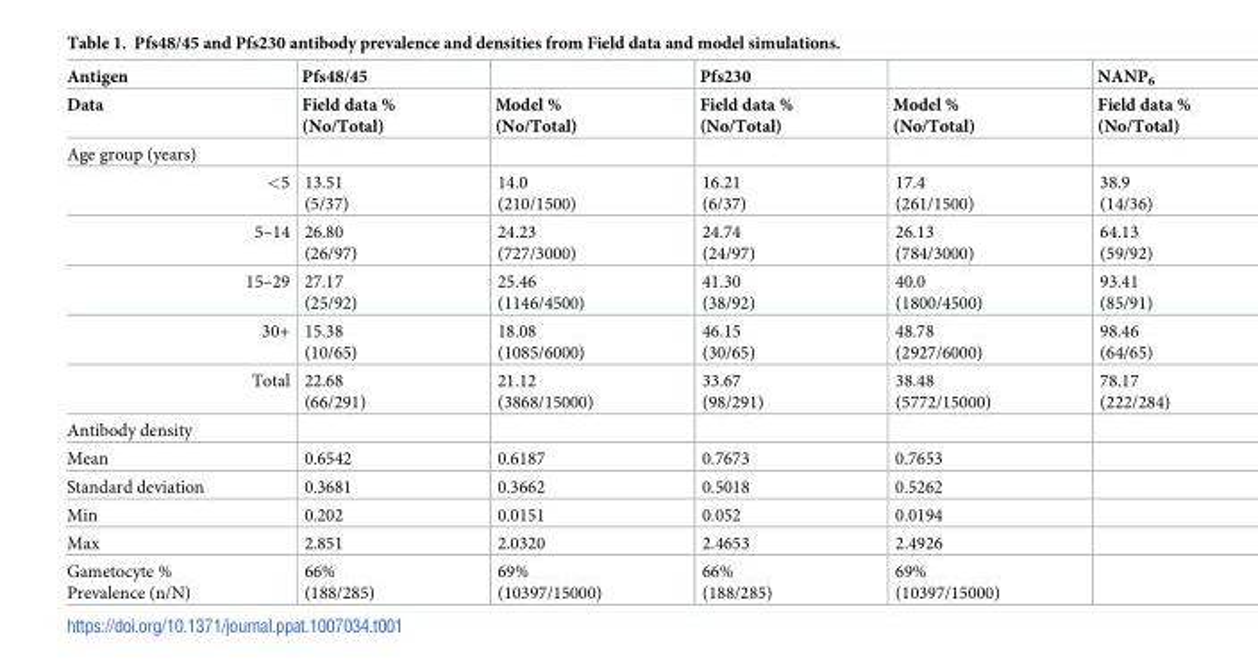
<table><thead><tr><td rowspan="2">Antigen Data</td><td rowspan="2">Pfs48/45 Field data % (No/Total)</td><td rowspan="2">Model % (No/Total)</td><td rowspan="2">Pfs230 Field data % (No/Total)</td><td rowspan="2">Model % (No/Total)</td><td rowspan="2">NANP<sub>6</sub> Field data % (No/Total)</td></tr><tr></tr></thead><tbody><tr><td colspan="6">Age group (years)</td></tr><tr><td>&lt;5</td><td>13.51 (5/37)</td><td>14.0 (210/1500)</td><td>16.21 (6/37)</td><td>17.4 (261/1500)</td><td>38.9 (14/36)</td></tr><tr><td>5–14</td><td>26.80 (26/97)</td><td>24.23 (727/3000)</td><td>24.74 (24/97)</td><td>26.13 (784/3000)</td><td>64.13 (59/92)</td></tr><tr><td>15–29</td><td>27.17 (25/92)</td><td>25.46 (1146/4500)</td><td>41.30 (38/92)</td><td>40.0 (1800/4500)</td><td>93.41 (85/91)</td></tr><tr><td>30+</td><td>15.38 (10/65)</td><td>18.08 (1085/6000)</td><td>46.15 (30/65)</td><td>48.78 (2927/6000)</td><td>98.46 (64/65)</td></tr><tr><td>Total</td><td>22.68 (66/291)</td><td>21.12 (3868/15000)</td><td>33.67 (98/291)</td><td>38.48 (5772/15000)</td><td>78.17 (222/284)</td></tr><tr><td colspan="6">Antibody density</td></tr><tr><td>Mean</td><td>0.6542</td><td>0.6187</td><td>0.7673</td><td>0.7653</td><td></td></tr><tr><td>Standard deviation</td><td>0.3681</td><td>0.3662</td><td>0.5018</td><td>0.5262</td><td></td></tr><tr><td>Min</td><td>0.202</td><td>0.0151</td><td>0.052</td><td>0.0194</td><td></td></tr><tr><td>Max</td><td>2.851</td><td>2.0320</td><td>2.4653</td><td>2.4926</td><td></td></tr><tr><td>Gametocyte % Prevalence (n/N)</td><td>66% (188/285)</td><td>69% (10397/15000)</td><td>66% (188/285)</td><td>69% (10397/15000)</td><td></td></tr></tbody></table>